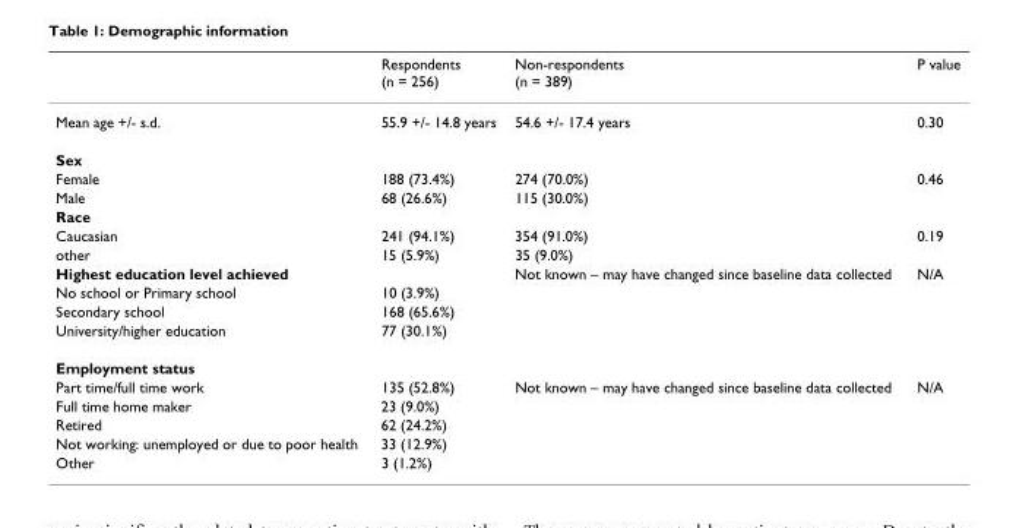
<table><thead><tr><td></td><td>Respondents (n = 256)</td><td>Non-respondents (n = 389)</td><td>P value</td></tr></thead><tbody><tr><td>Mean age +/- s.d.</td><td>55.9 +/- 14.8 years</td><td>54.6 +/- 17.4 years</td><td>0.30</td></tr><tr><td colspan="4">Sex</td></tr><tr><td>Female</td><td>188 (73.4%)</td><td>274 (70.0%)</td><td>0.46</td></tr><tr><td>Male</td><td>68 (26.6%)</td><td>115 (30.0%)</td><td></td></tr><tr><td colspan="4">Race</td></tr><tr><td>Caucasian</td><td>241 (94.1%)</td><td>354 (91.0%)</td><td>0.19</td></tr><tr><td>other</td><td>15 (5.9%)</td><td>35 (9.0%)</td><td></td></tr><tr><td>Highest education level achieved</td><td></td><td>Not known – may have changed since baseline data collected</td><td>N/A</td></tr><tr><td>No school or Primary school</td><td>10 (3.9%)</td><td></td><td></td></tr><tr><td>Secondary school</td><td>168 (65.6%)</td><td></td><td></td></tr><tr><td>University/higher education</td><td>77 (30.1%)</td><td></td><td></td></tr><tr><td colspan="4">Employment status</td></tr><tr><td>Part time/full time work</td><td>135 (52.8%)</td><td>Not known – may have changed since baseline data collected</td><td>N/A</td></tr><tr><td>Full time home maker</td><td>23 (9.0%)</td><td></td><td></td></tr><tr><td>Retired</td><td>62 (24.2%)</td><td></td><td></td></tr><tr><td>Not working: unemployed or due to poor health</td><td>33 (12.9%)</td><td></td><td></td></tr><tr><td>Other</td><td>3 (1.2%)</td><td></td><td></td></tr></tbody></table>